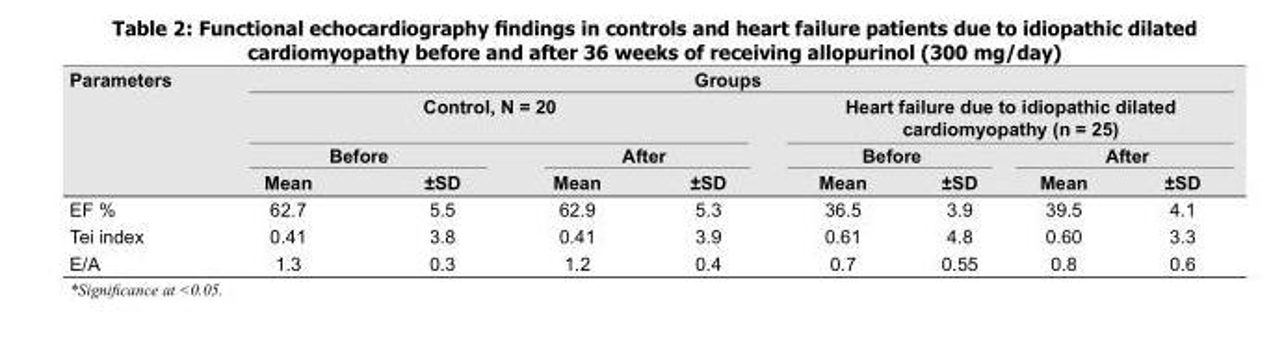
<table><thead><tr><td rowspan="4">Parameters</td><td colspan="8">Groups</td></tr><tr><td colspan="4">Control, N = 20</td><td colspan="4">Heart failure due to idiopathic dilated cardiomyopathy (n = 25)</td></tr><tr><td colspan="2">Before</td><td colspan="2">After</td><td colspan="2">Before</td><td colspan="2">After</td></tr><tr><td>Mean</td><td>±SD</td><td>Mean</td><td>±SD</td><td>Mean</td><td>±SD</td><td>Mean</td><td>±SD</td></tr></thead><tbody><tr><td>EF %</td><td>62.7</td><td>5.5</td><td>62.9</td><td>5.3</td><td>36.5</td><td>3.9</td><td>39.5</td><td>4.1</td></tr><tr><td>Tei index</td><td>0.41</td><td>3.8</td><td>0.41</td><td>3.9</td><td>0.61</td><td>4.8</td><td>0.60</td><td>3.3</td></tr><tr><td>E/A</td><td>1.3</td><td>0.3</td><td>1.2</td><td>0.4</td><td>0.7</td><td>0.55</td><td>0.8</td><td>0.6</td></tr></tbody></table>